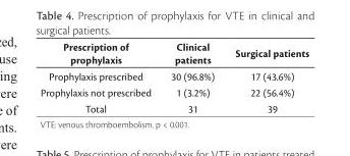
<table><thead><tr><td>Prescription of prophylaxis</td><td>Clinical patients</td><td>Surgical patients</td></tr></thead><tbody><tr><td>Prophylaxis prescribed</td><td>30 (96.8%)</td><td>17 (43.6%)</td></tr><tr><td>Prophylaxis not prescribed</td><td>1 (3.2%)</td><td>22 (56.4%)</td></tr><tr><td>Total</td><td>31</td><td>39</td></tr></tbody></table>